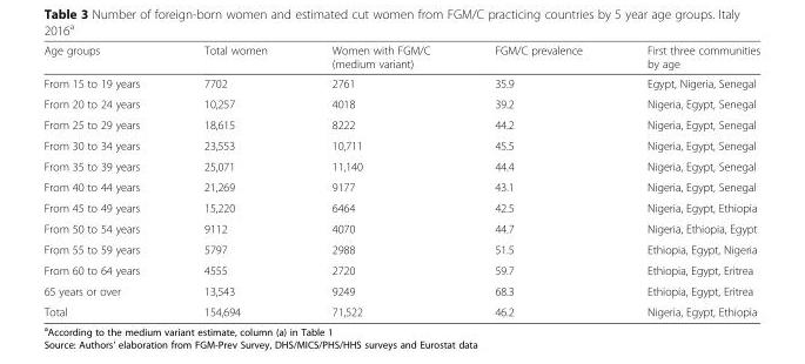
<table><thead><tr><td>Age groups</td><td>Total women</td><td>Women with FGM/C (medium variant)</td><td>FGM/C prevalence</td><td>First three communities by age</td></tr></thead><tbody><tr><td>From 15 to 19 years</td><td>7702</td><td>2761</td><td>35.9</td><td>Egypt, Nigeria, Senegal</td></tr><tr><td>From 20 to 24 years</td><td>10,257</td><td>4018</td><td>39.2</td><td>Nigeria, Egypt, Senegal</td></tr><tr><td>From 25 to 29 years</td><td>18,615</td><td>8222</td><td>44.2</td><td>Nigeria, Egypt, Senegal</td></tr><tr><td>From 30 to 34 years</td><td>23,553</td><td>10,711</td><td>45.5</td><td>Nigeria, Egypt, Senegal</td></tr><tr><td>From 35 to 39 years</td><td>25,071</td><td>11,140</td><td>44.4</td><td>Nigeria, Egypt, Senegal</td></tr><tr><td>From 40 to 44 years</td><td>21,269</td><td>9177</td><td>43.1</td><td>Nigeria, Egypt, Senegal</td></tr><tr><td>From 45 to 49 years</td><td>15,220</td><td>6464</td><td>42.5</td><td>Nigeria, Egypt, Ethiopia</td></tr><tr><td>From 50 to 54 years</td><td>9112</td><td>4070</td><td>44.7</td><td>Nigeria, Ethiopia, Egypt</td></tr><tr><td>From 55 to 59 years</td><td>5797</td><td>2988</td><td>51.5</td><td>Ethiopia, Egypt, Nigeria</td></tr><tr><td>From 60 to 64 years</td><td>4555</td><td>2720</td><td>59.7</td><td>Ethiopia, Egypt, Eritrea</td></tr><tr><td>65 years or over</td><td>13,543</td><td>9249</td><td>68.3</td><td>Ethiopia, Egypt, Eritrea</td></tr><tr><td>Total</td><td>154,694</td><td>71,522</td><td>46.2</td><td>Nigeria, Egypt, Ethiopia</td></tr></tbody></table>